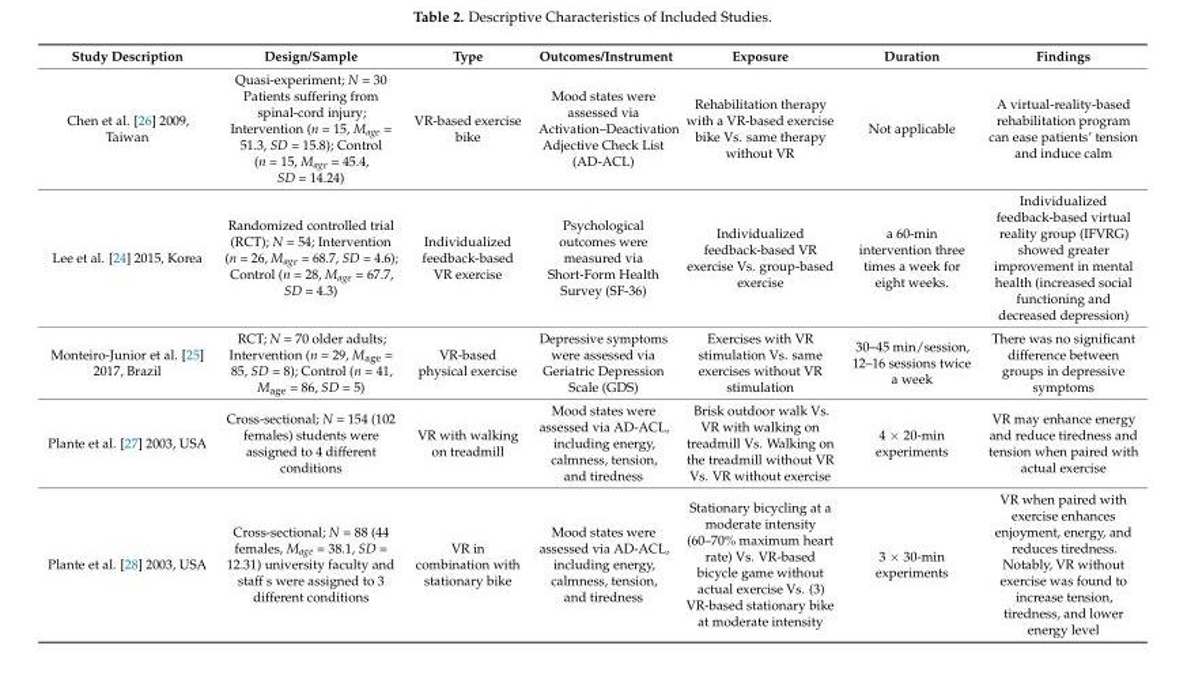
<table><thead><tr><td>Study Description</td><td>Design/Sample</td><td>Type</td><td>Outcomes/Instrument</td><td>Exposure</td><td>Duration</td><td>Findings</td></tr></thead><tbody><tr><td>Chen et al. [26] 2009, Taiwan</td><td>Quasi-experiment; N = 30 Patients suffering from spinal-cord injury; Intervention (n = 15, M<sub>age</sub> = 51.3, SD = 15.8); Control (n = 15, M<sub>age</sub> = 45.4, SD = 14.24)</td><td>VR-based exercise bike</td><td>Mood states were assessed via Activation–Deactivation Adjective Check List (AD-ACL)</td><td>Rehabilitation therapy with a VR-based exercise bike Vs. same therapy without VR</td><td>Not applicable</td><td>A virtual-reality-based rehabilitation program can ease patients’ tension and induce calm</td></tr><tr><td>Lee et al. [24] 2015, Korea</td><td>Randomized controlled trial (RCT); N = 54; Intervention (n = 26, M<sub>age</sub> = 68.7, SD = 4.6); Control (n = 28, M<sub>age</sub> = 67.7, SD = 4.3)</td><td>Individualized feedback-based VR exercise</td><td>Psychological outcomes were measured via Short-Form Health Survey (SF-36)</td><td>Individualized feedback-based VR exercise Vs. group-based exercise</td><td>a 60-min intervention three times a week for eight weeks.</td><td>Individualized feedback-based virtual reality group (IFVRG) showed greater improvement in mental health (increased social functioning and decreased depression)</td></tr><tr><td>Monteiro-Junior et al. [25] 2017, Brazil</td><td>RCT; N = 70 older adults; Intervention (n = 29, M<sub>age</sub> = 85, SD = 8); Control (n = 41, M<sub>age</sub> = 86, SD = 5)</td><td>VR-based physical exercise</td><td>Depressive symptoms were assessed via Geriatric Depression Scale (GDS)</td><td>Exercises with VR stimulation Vs. same exercises without VR stimulation</td><td>30–45 min/session, 12–16 sessions twice a week</td><td>There was no significant difference between groups in depressive symptoms</td></tr><tr><td>Plante et al. [27] 2003, USA</td><td>Cross-sectional; N = 154 (102 females) students were assigned to 4 different conditions</td><td>VR with walking on treadmill</td><td>Mood states were assessed via AD-ACL, including energy, calmness, tension, and tiredness</td><td>Brisk outdoor walk Vs. VR with walking on treadmill Vs. Walking on the treadmill without VR Vs. VR without exercise</td><td>4 × 20-min experiments</td><td>VR may enhance energy and reduce tiredness and tension when paired with actual exercise</td></tr><tr><td>Plante et al. [28] 2003, USA</td><td>Cross-sectional; N = 88 (44 females, M<sub>age</sub> = 38.1, SD = 12.31) university faculty and staff s were assigned to 3 different conditions</td><td>VR in combination with stationary bike</td><td>Mood states were assessed via AD-ACL, including energy, calmness, tension, and tiredness</td><td>Stationary bicycling at a moderate intensity (60–70% maximum heart rate) Vs. VR-based bicycle game without actual exercise Vs. (3) VR-based stationary bike at moderate intensity</td><td>3 × 30-min experiments</td><td>VR when paired with exercise enhances enjoyment, energy, and reduces tiredness. Notably, VR without exercise was found to increase tension, tiredness, and lower energy level</td></tr></tbody></table>